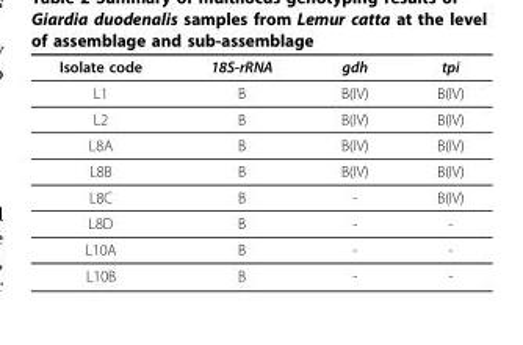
<table><thead><tr><td>Isolate code</td><td>18S-rRNA</td><td>gdh</td><td>tpi</td></tr></thead><tbody><tr><td>L1</td><td>B</td><td>B(IV)</td><td>B(IV)</td></tr><tr><td>L2</td><td>B</td><td>B(IV)</td><td>B(IV)</td></tr><tr><td>L8A</td><td>B</td><td>B(IV)</td><td>B(IV)</td></tr><tr><td>L8B</td><td>B</td><td>B(IV)</td><td>B(IV)</td></tr><tr><td>L8C</td><td>B</td><td>-</td><td>B(IV)</td></tr><tr><td>L8D</td><td>B</td><td>-</td><td>-</td></tr><tr><td>L10A</td><td>B</td><td>-</td><td>-</td></tr><tr><td>L10B</td><td>B</td><td>-</td><td>-</td></tr></tbody></table>